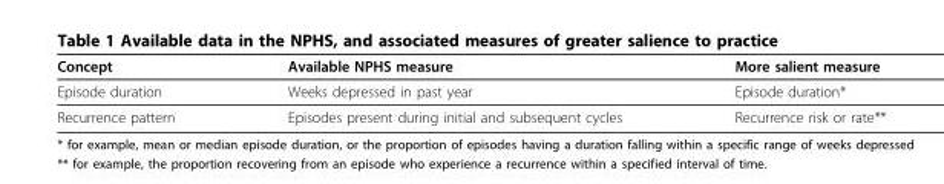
<table><thead><tr><td>Concept</td><td>Available NPHS measure</td><td>More salient measure</td></tr></thead><tbody><tr><td>Episode duration</td><td>Weeks depressed in past year</td><td>Episode duration*</td></tr><tr><td>Recurrence pattern</td><td>Episodes present during initial and subsequent cycles</td><td>Recurrence risk or rate**</td></tr></tbody></table>